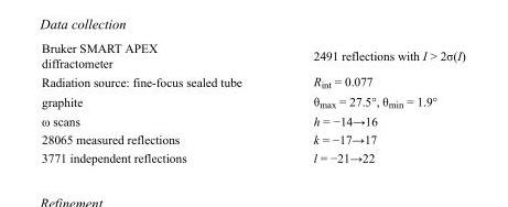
<table><tbody><tr><td>Bruker SMART APEX diffractometer</td><td>2491 reflections with I &gt; 2σ(I)</td></tr><tr><td>Radiation source: fine-focus sealed tube</td><td>R<sub>int</sub> = 0.077</td></tr><tr><td>graphite</td><td>θ<sub>max</sub> = 27.5°, θ<sub>min</sub> = 1.9°</td></tr><tr><td>ω scans</td><td>h = −14→16</td></tr><tr><td>28065 measured reflections</td><td>k = −17→17</td></tr><tr><td>3771 independent reflections</td><td>l = −21→22</td></tr></tbody></table>